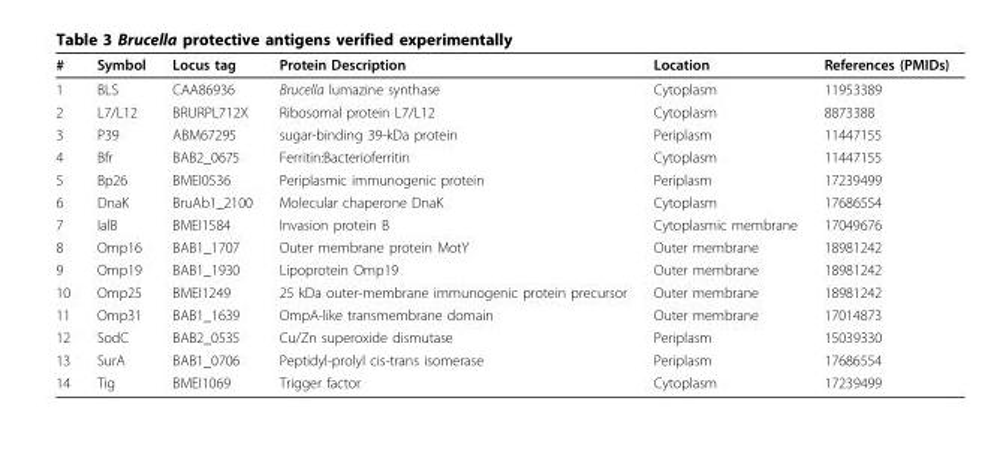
<table><thead><tr><td>#</td><td>Symbol</td><td>Locus tag</td><td>Protein Description</td><td>Location</td><td>References (PMIDs)</td></tr></thead><tbody><tr><td>1</td><td>BLS</td><td>CAA86936</td><td>Brucella lumazine synthase</td><td>Cytoplasm</td><td>11953389</td></tr><tr><td>2</td><td>L7/L12</td><td>BRURPL712X</td><td>Ribosomal protein L7/L12</td><td>Cytoplasm</td><td>8873388</td></tr><tr><td>3</td><td>P39</td><td>ABM67295</td><td>sugar-binding 39-kDa protein</td><td>Periplasm</td><td>11447155</td></tr><tr><td>4</td><td>Bfr</td><td>BAB2_0675</td><td>Ferritin:Bacterioferritin</td><td>Cytoplasm</td><td>11447155</td></tr><tr><td>5</td><td>Bp26</td><td>BMEI0536</td><td>Periplasmic immunogenic protein</td><td>Periplasm</td><td>17239499</td></tr><tr><td>6</td><td>DnaK</td><td>BruAb1_2100</td><td>Molecular chaperone DnaK</td><td>Cytoplasm</td><td>17686554</td></tr><tr><td>7</td><td>IalB</td><td>BMEI1584</td><td>Invasion protein B</td><td>Cytoplasmic membrane</td><td>17049676</td></tr><tr><td>8</td><td>Omp16</td><td>BAB1_1707</td><td>Outer membrane protein MotY</td><td>Outer membrane</td><td>18981242</td></tr><tr><td>9</td><td>Omp19</td><td>BAB1_1930</td><td>Lipoprotein Omp19</td><td>Outer membrane</td><td>18981242</td></tr><tr><td>10</td><td>Omp25</td><td>BMEI1249</td><td>25 kDa outer-membrane immunogenic protein precursor</td><td>Outer membrane</td><td>18981242</td></tr><tr><td>11</td><td>Omp31</td><td>BAB1_1639</td><td>OmpA-like transmembrane domain</td><td>Outer membrane</td><td>17014873</td></tr><tr><td>12</td><td>SodC</td><td>BAB2_0535</td><td>Cu/Zn superoxide dismutase</td><td>Periplasm</td><td>15039330</td></tr><tr><td>13</td><td>SurA</td><td>BAB1_0706</td><td>Peptidyl-prolyl cis-trans isomerase</td><td>Periplasm</td><td>17686554</td></tr><tr><td>14</td><td>Tig</td><td>BMEI1069</td><td>Trigger factor</td><td>Cytoplasm</td><td>17239499</td></tr></tbody></table>